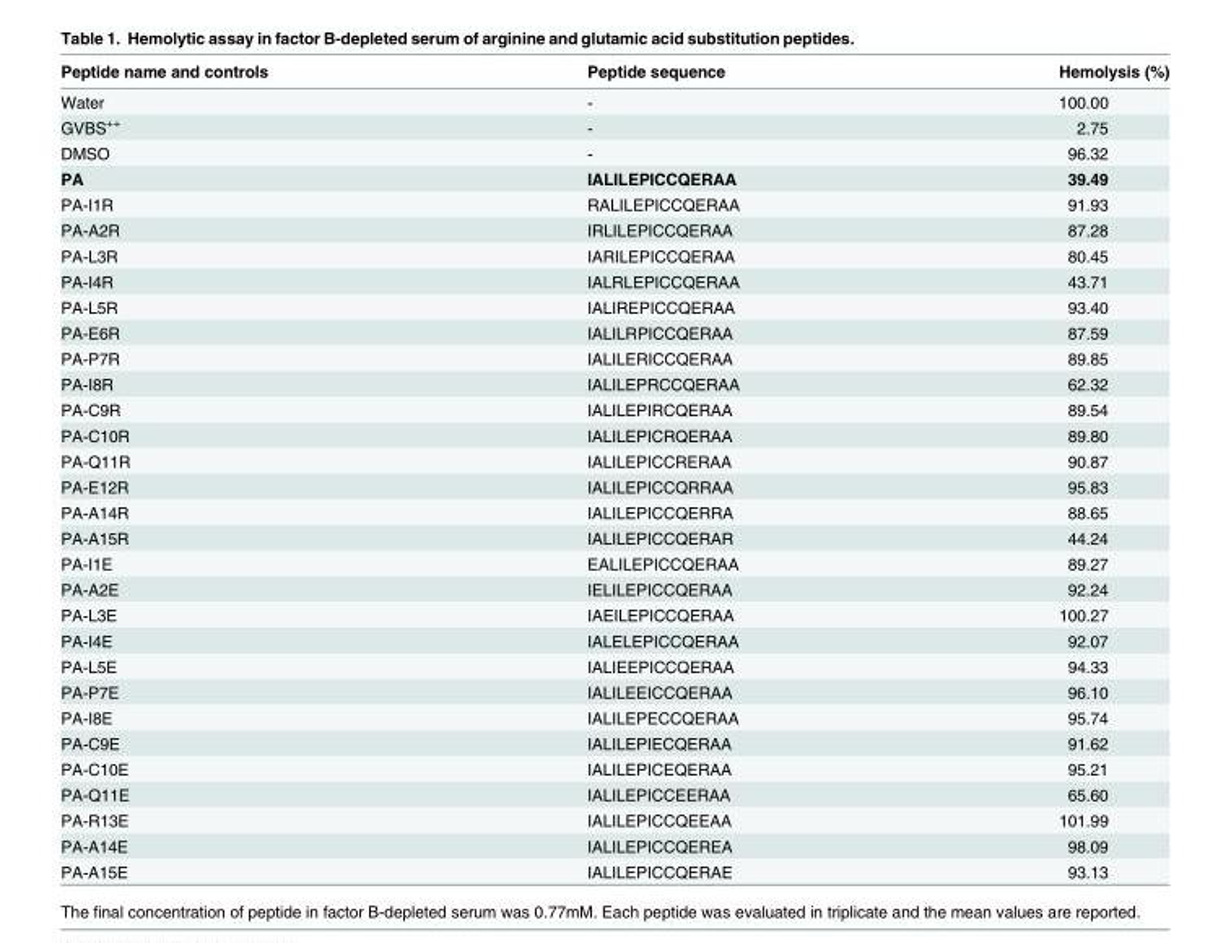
<table><thead><tr><td>Peptide name and controls</td><td>Peptide sequence</td><td>Hemolysis (%)</td></tr></thead><tbody><tr><td>Water</td><td>-</td><td>100.00</td></tr><tr><td>GVBS<sup>++</sup></td><td>-</td><td>2.75</td></tr><tr><td>DMSO</td><td>-</td><td>96.32</td></tr><tr><td>PA</td><td>IALILEPICCQERAA</td><td>39.49</td></tr><tr><td>PA-I1R</td><td>RALILEPICCQERAA</td><td>91.93</td></tr><tr><td>PA-A2R</td><td>IRLILEPICCQERAA</td><td>87.28</td></tr><tr><td>PA-L3R</td><td>IARILEPICCQERAA</td><td>80.45</td></tr><tr><td>PA-I4R</td><td>IALRLEPICCQERAA</td><td>43.71</td></tr><tr><td>PA-L5R</td><td>IALIREPICCQERAA</td><td>93.40</td></tr><tr><td>PA-E6R</td><td>IALILRPICCQERAA</td><td>87.59</td></tr><tr><td>PA-P7R</td><td>IALILERICCQERAA</td><td>89.85</td></tr><tr><td>PA-I8R</td><td>IALILEPRCCQERAA</td><td>62.32</td></tr><tr><td>PA-C9R</td><td>IALILEPIRCQERAA</td><td>89.54</td></tr><tr><td>PA-C10R</td><td>IALILEPICRQERAA</td><td>89.80</td></tr><tr><td>PA-Q11R</td><td>IALILEPICCRERAA</td><td>90.87</td></tr><tr><td>PA-E12R</td><td>IALILEPICCQRRAA</td><td>95.83</td></tr><tr><td>PA-A14R</td><td>IALILEPICCQERRA</td><td>88.65</td></tr><tr><td>PA-A15R</td><td>IALILEPICCQERAR</td><td>44.24</td></tr><tr><td>PA-I1E</td><td>EALILEPICCQERAA</td><td>89.27</td></tr><tr><td>PA-A2E</td><td>IELILEPICCQERAA</td><td>92.24</td></tr><tr><td>PA-L3E</td><td>IAEILEPICCQERAA</td><td>100.27</td></tr><tr><td>PA-I4E</td><td>IALELEPICCQERAA</td><td>92.07</td></tr><tr><td>PA-L5E</td><td>IALIEEPICCQERAA</td><td>94.33</td></tr><tr><td>PA-P7E</td><td>IALILEEICCQERAA</td><td>96.10</td></tr><tr><td>PA-I8E</td><td>IALILEPECCQERAA</td><td>95.74</td></tr><tr><td>PA-C9E</td><td>IALILEPIECQERAA</td><td>91.62</td></tr><tr><td>PA-C10E</td><td>IALILEPICEQERAA</td><td>95.21</td></tr><tr><td>PA-Q11E</td><td>IALILEPICCEERAA</td><td>65.60</td></tr><tr><td>PA-R13E</td><td>IALILEPICCQEEAA</td><td>101.99</td></tr><tr><td>PA-A14E</td><td>IALILEPICCQEREA</td><td>98.09</td></tr><tr><td>PA-A15E</td><td>IALILEPICCQERAE</td><td>93.13</td></tr></tbody></table>